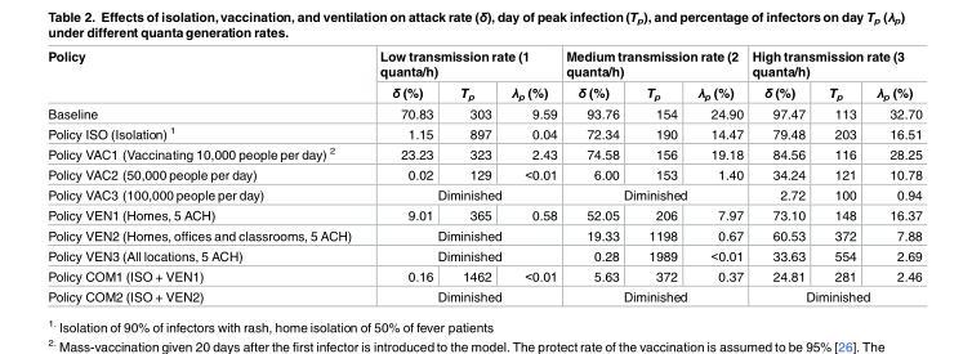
<table><thead><tr><td rowspan="2">Policy</td><td colspan="3">Low transmission rate (1 quanta/h)</td><td colspan="3">Medium transmission rate (2 quanta/h)</td><td colspan="3">High transmission rate (3 quanta/h)</td></tr><tr><td>δ (%)</td><td>T<sub>p</sub></td><td>λ<sub>p</sub> (%)</td><td>δ (%)</td><td>T<sub>p</sub></td><td>λ<sub>p</sub> (%)</td><td>δ (%)</td><td>T<sub>p</sub></td><td>λ<sub>p</sub> (%)</td></tr></thead><tbody><tr><td>Baseline</td><td>70.83</td><td>303</td><td>9.59</td><td>93.76</td><td>154</td><td>24.90</td><td>97.47</td><td>113</td><td>32.70</td></tr><tr><td>Policy ISO (Isolation) <sup>1</sup></td><td>1.15</td><td>897</td><td>0.04</td><td>72.34</td><td>190</td><td>14.47</td><td>79.48</td><td>203</td><td>16.51</td></tr><tr><td>Policy VAC1 (Vaccinating 10,000 people per day) <sup>2</sup></td><td>23.23</td><td>323</td><td>2.43</td><td>74.58</td><td>156</td><td>19.18</td><td>84.56</td><td>116</td><td>28.25</td></tr><tr><td>Policy VAC2 (50,000 people per day)</td><td>0.02</td><td>129</td><td>&lt;0.01</td><td>6.00</td><td>153</td><td>1.40</td><td>34.24</td><td>121</td><td>10.78</td></tr><tr><td>Policy VAC3 (100,000 people per day)</td><td colspan="3">Diminished</td><td colspan="3">Diminished</td><td>2.72</td><td>100</td><td>0.94</td></tr><tr><td>Policy VEN1 (Homes, 5 ACH)</td><td>9.01</td><td>365</td><td>0.58</td><td>52.05</td><td>206</td><td>7.97</td><td>73.10</td><td>148</td><td>16.37</td></tr><tr><td>Policy VEN2 (Homes, offices and classrooms, 5 ACH)</td><td colspan="3">Diminished</td><td>19.33</td><td>1198</td><td>0.67</td><td>60.53</td><td>372</td><td>7.88</td></tr><tr><td>Policy VEN3 (All locations, 5 ACH)</td><td colspan="3">Diminished</td><td>0.28</td><td>1989</td><td>&lt;0.01</td><td>33.63</td><td>554</td><td>2.69</td></tr><tr><td>Policy COM1 (ISO + VEN1)</td><td>0.16</td><td>1462</td><td>&lt;0.01</td><td>5.63</td><td>372</td><td>0.37</td><td>24.81</td><td>281</td><td>2.46</td></tr><tr><td>Policy COM2 (ISO + VEN2)</td><td colspan="3">Diminished</td><td colspan="3">Diminished</td><td colspan="3">Diminished</td></tr></tbody></table>